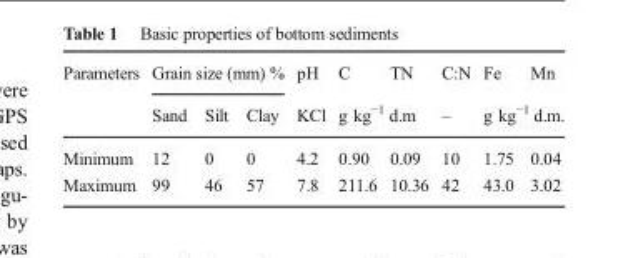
<table><thead><tr><td rowspan="2">Parameters</td><td colspan="3">Grain size (mm) %</td><td rowspan="2">pH KCl</td><td>C</td><td>TN</td><td rowspan="2">C:N –</td><td>Fe</td><td>Mn</td></tr><tr><td>Sand</td><td>Silt</td><td>Clay</td><td colspan="2">g kg<sup>−1</sup> d.m</td><td colspan="2">g kg<sup>−1</sup> d.m.</td></tr></thead><tbody><tr><td>Minimum</td><td>12</td><td>0</td><td>0</td><td>4.2</td><td>0.90</td><td>0.09</td><td>10</td><td>1.75</td><td>0.04</td></tr><tr><td>Maximum</td><td>99</td><td>46</td><td>57</td><td>7.8</td><td>211.6</td><td>10.36</td><td>42</td><td>43.0</td><td>3.02</td></tr></tbody></table>